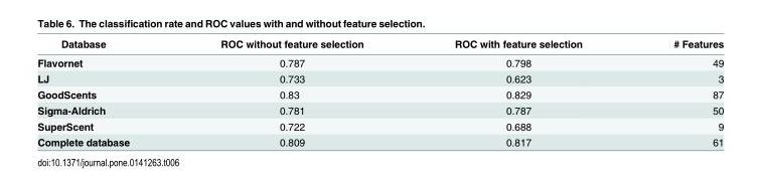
<table><thead><tr><td>Database</td><td>ROC without feature selection</td><td>ROC with feature selection</td><td># Features</td></tr></thead><tbody><tr><td>Flavornet</td><td>0.787</td><td>0.798</td><td>49</td></tr><tr><td>LJ</td><td>0.733</td><td>0.623</td><td>3</td></tr><tr><td>GoodScents</td><td>0.83</td><td>0.829</td><td>87</td></tr><tr><td>Sigma-Aldrich</td><td>0.781</td><td>0.787</td><td>50</td></tr><tr><td>SuperScent</td><td>0.722</td><td>0.688</td><td>9</td></tr><tr><td>Complete database</td><td>0.809</td><td>0.817</td><td>61</td></tr></tbody></table>